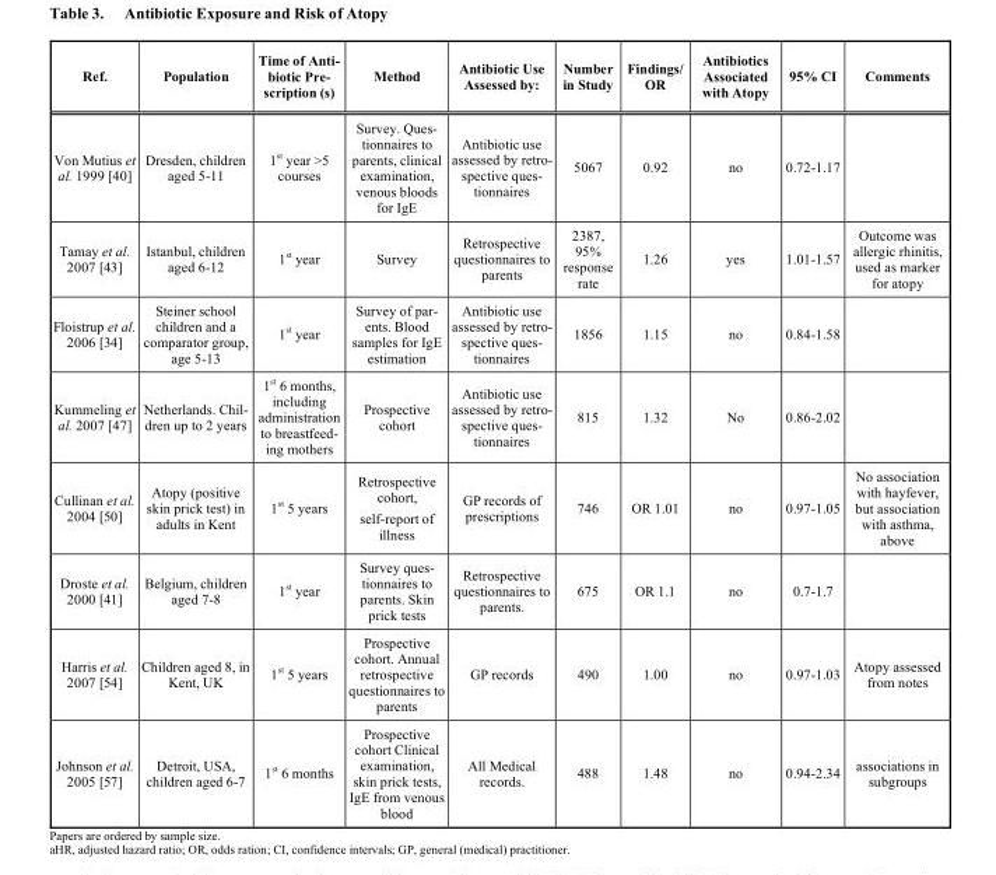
<table><thead><tr><td>Ref.</td><td>Population</td><td>Time of Anti- biotic Pre- scription (s)</td><td>Method</td><td>Antibiotic Use Assessed by:</td><td>Number in Study</td><td>Findings/ OR</td><td>Antibiotics Associated with Atopy</td><td>95% CI</td><td>Comments</td></tr></thead><tbody><tr><td>Von Mutius et al. 1999 [40]</td><td>Dresden, children aged 5-11</td><td>1<sup>st</sup> year &gt;5 courses</td><td>Survey. Ques- tionnaires to parents, clinical examination, venous bloods for IgE</td><td>Antibiotic use assessed by retro- spective ques- tionnaires</td><td>5067</td><td>0.92</td><td>no</td><td>0.72-1.17</td><td></td></tr><tr><td>Tamay et al. 2007 [43]</td><td>Istanbul, children aged 6-12</td><td>1<sup>st</sup> year</td><td>Survey</td><td>Retrospective questionnaires to parents</td><td>2387, 95% response rate</td><td>1.26</td><td>yes</td><td>1.01-1.57</td><td>Outcome was allergic rhinitis, used as marker for atopy</td></tr><tr><td>Floistrup et al. 2006 [34]</td><td>Steiner school children and a comparator group, age 5-13</td><td>1<sup>st</sup> year</td><td>Survey of par- ents. Blood samples for IgE estimation</td><td>Antibiotic use assessed by retro- spective ques- tionnaires</td><td>1856</td><td>1.15</td><td>no</td><td>0.84-1.58</td><td></td></tr><tr><td>Kummeling et al. 2007 [47]</td><td>Netherlands. Chil- dren up to 2 years</td><td>1st 6 months, including administration to breastfeed- ing mothers</td><td>Prospective cohort</td><td>Antibiotic use assessed by retro- spective ques- tionnaires</td><td>815</td><td>1.32</td><td>No</td><td>0.86-2.02</td><td></td></tr><tr><td>Cullinan et al. 2004 [50]</td><td>Atopy (positive skin prick test) in adults in Kent</td><td>1<sup>st</sup> 5 years</td><td>Retrospective cohort, self-report of illness</td><td>GP records of prescriptions</td><td>746</td><td>OR 1.01</td><td>no</td><td>0.97-1.05</td><td>No association with hayfever, but association with asthma, above</td></tr><tr><td>Droste et al. 2000 [41]</td><td>Belgium, children aged 7-8</td><td>1<sup>st</sup> year</td><td>Survey ques- tionnaires to parents. Skin prick tests</td><td>Retrospective questionnaires to parents.</td><td>675</td><td>OR 1.1</td><td>no</td><td>0.7-1.7</td><td></td></tr><tr><td>Harris et al. 2007 [54]</td><td>Children aged 8, in Kent, UK</td><td>1<sup>st</sup> 5 years</td><td>Prospective cohort. Annual retrospective questionnaires to parents</td><td>GP records</td><td>490</td><td>1.00</td><td>no</td><td>0.97-1.03</td><td>Atopy assessed from notes</td></tr><tr><td>Johnson et al. 2005 [57]</td><td>Detroit, USA, children aged 6-7</td><td>1<sup>st</sup> 6 months</td><td>Prospective cohort Clinical examination, skin prick tests, IgE from venous blood</td><td>All Medical records.</td><td>488</td><td>1.48</td><td>no</td><td>0.94-2.34</td><td>associations in subgroups</td></tr></tbody></table>